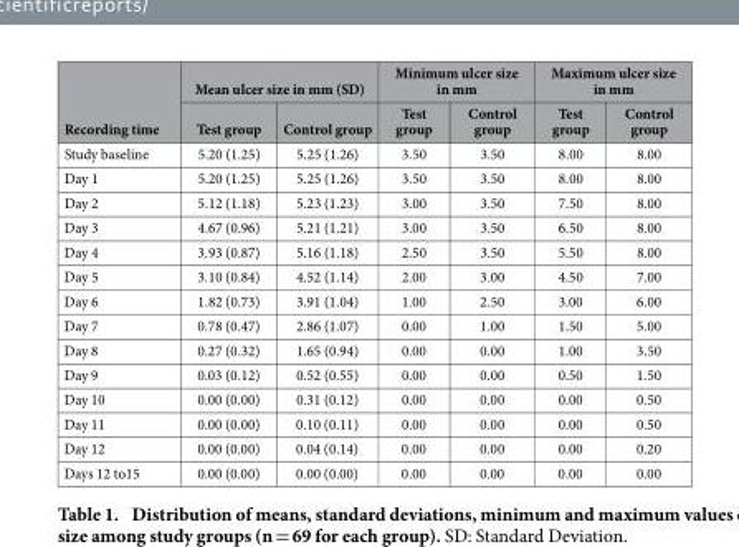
<table><thead><tr><td rowspan="2">Recording time</td><td colspan="2">Mean ulcer size in mm (SD)</td><td colspan="2">Minimum ulcer size in mm</td><td colspan="2">Maximum ulcer size in mm</td></tr><tr><td>Test group</td><td>Control group</td><td>Test group</td><td>Control group</td><td>Test group</td><td>Control group</td></tr></thead><tbody><tr><td>Study baseline</td><td>5.20 (1.25)</td><td>5.25 (1.26)</td><td>3.50</td><td>3.50</td><td>8.00</td><td>8.00</td></tr><tr><td>Day 1</td><td>5.20 (1.25)</td><td>5.25 (1.26)</td><td>3.50</td><td>3.50</td><td>8.00</td><td>8.00</td></tr><tr><td>Day 2</td><td>5.12 (1.18)</td><td>5.23 (1.23)</td><td>3.00</td><td>3.50</td><td>7.50</td><td>8.00</td></tr><tr><td>Day 3</td><td>4.67 (0.96)</td><td>5.21 (1.21)</td><td>3.00</td><td>3.50</td><td>6.50</td><td>8.00</td></tr><tr><td>Day 4</td><td>3.93 (0.87)</td><td>5.16 (1.18)</td><td>2.50</td><td>3.50</td><td>5.50</td><td>8.00</td></tr><tr><td>Day 5</td><td>3.10 (0.84)</td><td>4.52 (1.14)</td><td>2.00</td><td>3.00</td><td>4.50</td><td>7.00</td></tr><tr><td>Day 6</td><td>1.82 (0.73)</td><td>3.91 (1.04)</td><td>1.00</td><td>2.50</td><td>3.00</td><td>6.00</td></tr><tr><td>Day 7</td><td>0.78 (0.47)</td><td>2.86 (1.07)</td><td>0.00</td><td>1.00</td><td>1.50</td><td>5.00</td></tr><tr><td>Day 8</td><td>0.27 (0.32)</td><td>1.65 (0.94)</td><td>0.00</td><td>0.00</td><td>1.00</td><td>3.50</td></tr><tr><td>Day 9</td><td>0.03 (0.12)</td><td>0.52 (0.55)</td><td>0.00</td><td>0.00</td><td>0.50</td><td>1.50</td></tr><tr><td>Day 10</td><td>0.00 (0.00)</td><td>0.31 (0.12)</td><td>0.00</td><td>0.00</td><td>0.00</td><td>0.50</td></tr><tr><td>Day 11</td><td>0.00 (0.00)</td><td>0.10 (0.11)</td><td>0.00</td><td>0.00</td><td>0.00</td><td>0.50</td></tr><tr><td>Day 12</td><td>0.00 (0.00)</td><td>0.04 (0.14)</td><td>0.00</td><td>0.00</td><td>0.00</td><td>0.20</td></tr><tr><td>Days 12 to15</td><td>0.00 (0.00)</td><td>0.00 (0.00)</td><td>0.00</td><td>0.00</td><td>0.00</td><td>0.00</td></tr></tbody></table>